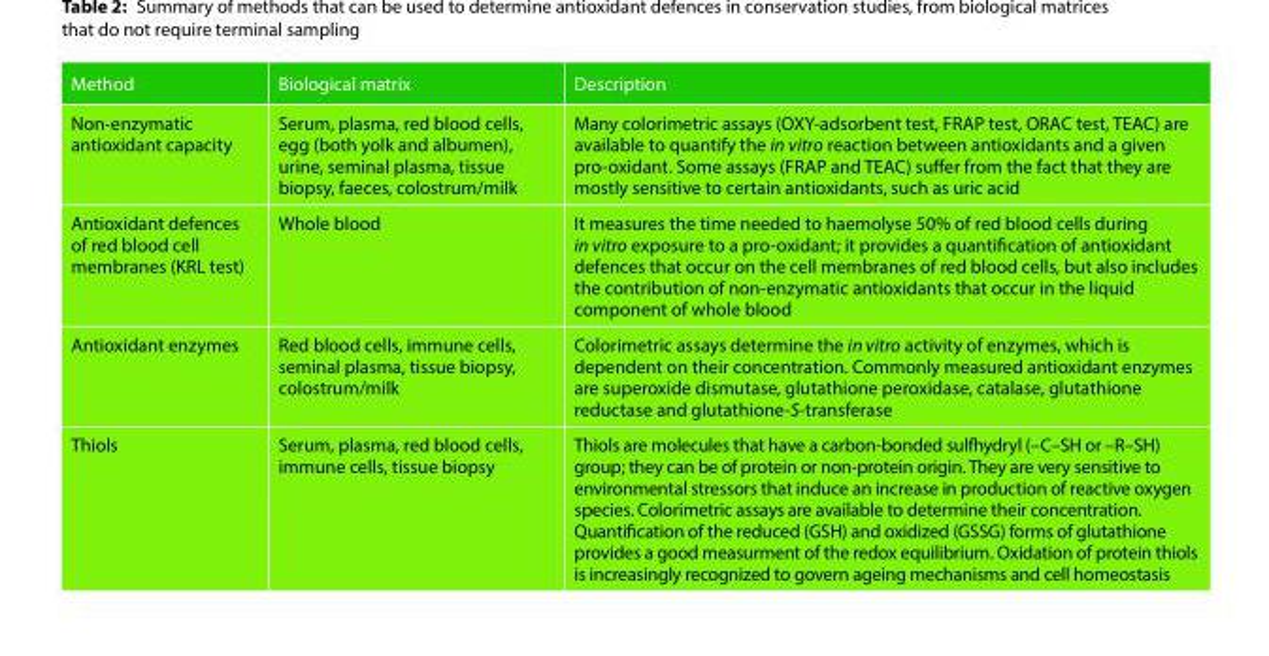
<table><thead><tr><td>Method</td><td>Biological matrix</td><td>Description</td></tr></thead><tbody><tr><td>Non-enzymatic antioxidant capacity</td><td>Serum, plasma, red blood cells, egg (both yolk and albumen), urine, seminal plasma, tissue biopsy, faeces, colostrum/milk</td><td>Many colorimetric assays (OXY-adsorbent test, FRAP test, ORAC test, TEAC) are available to quantify the in vitro reaction between antioxidants and a given pro-oxidant. Some assays (FRAP and TEAC) suffer from the fact that they are mostly sensitive to certain antioxidants, such as uric acid</td></tr><tr><td>Antioxidant defences of red blood cell membranes (KRL test)</td><td>Whole blood</td><td>It measures the time needed to haemolyse 50% of red blood cells during in vitro exposure to a pro-oxidant; it provides a quantification of antioxidant defences that occur on the cell membranes of red blood cells, but also includes the contribution of non-enzymatic antioxidants that occur in the liquid component of whole blood</td></tr><tr><td>Antioxidant enzymes</td><td>Red blood cells, immune cells, seminal plasma, tissue biopsy, colostrum/milk</td><td>Colorimetric assays determine the in vitro activity of enzymes, which is dependent on their concentration. Commonly measured antioxidant enzymes are superoxide dismutase, glutathione peroxidase, catalase, glutathione reductase and glutathione-S-transferase</td></tr><tr><td>Thiols</td><td>Serum, plasma, red blood cells, immune cells, tissue biopsy</td><td>Thiols are molecules that have a carbon-bonded sulfhydryl (–C–SH or –R–SH) group; they can be of protein or non-protein origin. They are very sensitive to environmental stressors that induce an increase in production of reactive oxygen species. Colorimetric assays are available to determine their concentration. Quantification of the reduced (GSH) and oxidized (GSSG) forms of glutathione provides a good measurment of the redox equilibrium. Oxidation of protein thiols is increasingly recognized to govern ageing mechanisms and cell homeostasis</td></tr></tbody></table>